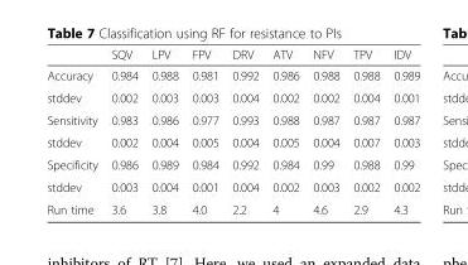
<table><thead><tr><td></td><td>SQV</td><td>LPV</td><td>FPV</td><td>DRV</td><td>ATV</td><td>NFV</td><td>TPV</td><td>IDV</td></tr></thead><tbody><tr><td>Accuracy</td><td>0.984</td><td>0.988</td><td>0.981</td><td>0.992</td><td>0.986</td><td>0.988</td><td>0.988</td><td>0.989</td></tr><tr><td>stddev</td><td>0.002</td><td>0.003</td><td>0.003</td><td>0.004</td><td>0.002</td><td>0.002</td><td>0.004</td><td>0.001</td></tr><tr><td>Sensitivity</td><td>0.983</td><td>0.986</td><td>0.977</td><td>0.993</td><td>0.988</td><td>0.987</td><td>0.987</td><td>0.987</td></tr><tr><td>stddev</td><td>0.002</td><td>0.004</td><td>0.005</td><td>0.004</td><td>0.005</td><td>0.004</td><td>0.007</td><td>0.003</td></tr><tr><td>Specificity</td><td>0.986</td><td>0.989</td><td>0.984</td><td>0.992</td><td>0.984</td><td>0.99</td><td>0.988</td><td>0.99</td></tr><tr><td>stddev</td><td>0.003</td><td>0.004</td><td>0.001</td><td>0.004</td><td>0.002</td><td>0.003</td><td>0.002</td><td>0.002</td></tr><tr><td>Run time</td><td>3.6</td><td>3.8</td><td>4.0</td><td>2.2</td><td>4</td><td>4.6</td><td>2.9</td><td>4.3</td></tr></tbody></table>